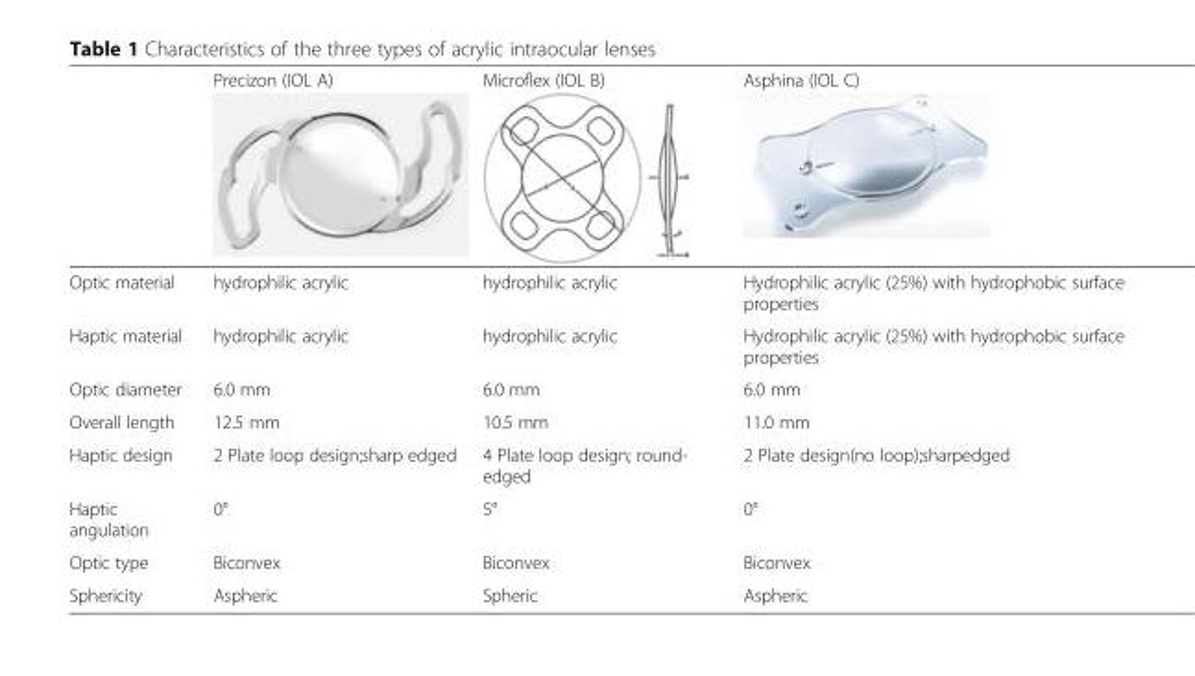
<table><thead><tr><td></td><td>Precizon (IOL A)</td><td>Microflex (IOL B)</td><td>Asphina (IOL C)</td></tr></thead><tbody><tr><td>Optic material</td><td>hydrophilic acrylic</td><td>hydrophilic acrylic</td><td>Hydrophilic acrylic (25%) with hydrophobic surface properties</td></tr><tr><td>Haptic material</td><td>hydrophilic acrylic</td><td>hydrophilic acrylic</td><td>Hydrophilic acrylic (25%) with hydrophobic surface properties</td></tr><tr><td>Optic diameter</td><td>6.0 mm</td><td>6.0 mm</td><td>6.0 mm</td></tr><tr><td>Overall length</td><td>12.5 mm</td><td>10.5 mm</td><td>11.0 mm</td></tr><tr><td>Haptic design</td><td>2 Plate loop design;sharp edged</td><td>4 Plate loop design; round- edged</td><td>2 Plate design(no loop);sharpedged</td></tr><tr><td>Haptic angulation</td><td>0°</td><td>5°</td><td>0°</td></tr><tr><td>Optic type</td><td>Biconvex</td><td>Biconvex</td><td>Biconvex</td></tr><tr><td>Sphericity</td><td>Aspheric</td><td>Spheric</td><td>Aspheric</td></tr></tbody></table>